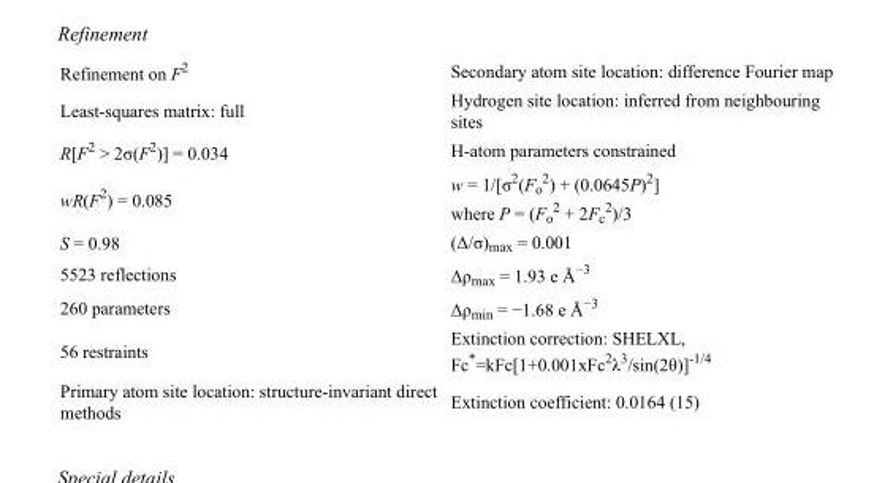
<table><tbody><tr><td>Refinement on F<sup>2</sup></td><td>Secondary atom site location: difference Fourier map</td></tr><tr><td>Least-squares matrix: full</td><td>Hydrogen site location: inferred from neighbouring sites</td></tr><tr><td>R[F<sup>2</sup> &gt; 2σ(F<sup>2</sup>)] = 0.034</td><td>H-atom parameters constrained</td></tr><tr><td>wR(F<sup>2</sup>) = 0.085</td><td>w = 1/[σ<sup>2</sup>(F<sub>o</sub> <sup>2</sup>) + (0.0645P)<sup>2</sup>] where P = (F<sub>o</sub> <sup>2</sup> + 2F<sub>c</sub> <sup>2</sup>)/3</td></tr><tr><td>S = 0.98</td><td>(Δ/σ)<sub>max</sub> = 0.001</td></tr><tr><td>5523 reflections</td><td>Δρ<sub>max</sub> = 1.93 e Å<sup>−3</sup></td></tr><tr><td>260 parameters</td><td>Δρ<sub>min</sub> = −1.68 e Å<sup>−3</sup></td></tr><tr><td>56 restraints</td><td>Extinction correction: SHELXL, Fc*=kFc[1+0.001xFc<sup>2</sup>λ<sup>3</sup>/sin(2θ)]<sup>-1/4</sup></td></tr><tr><td>Primary atom site location: structure-invariant direct methods</td><td>Extinction coefficient: 0.0164 (15)</td></tr></tbody></table>